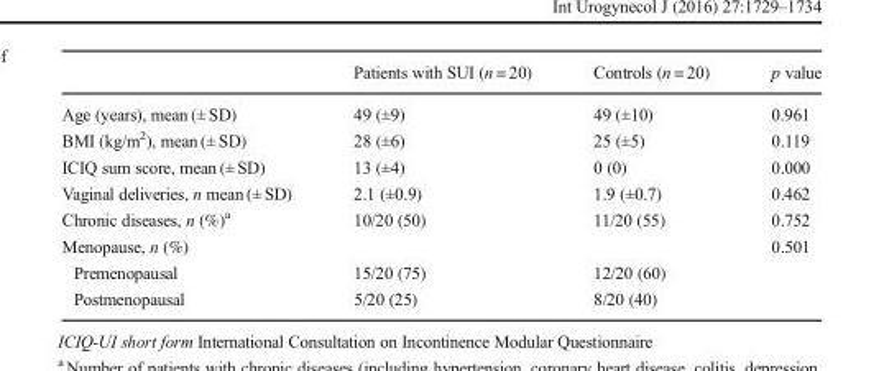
<table><thead><tr><td></td><td>Patients with SUI (n = 20)</td><td>Controls (n = 20)</td><td>p value</td></tr></thead><tbody><tr><td>Age (years), mean (± SD)</td><td>49 (±9)</td><td>49 (±10)</td><td>0.961</td></tr><tr><td>BMI (kg/m<sup>2</sup>), mean (± SD)</td><td>28 (±6)</td><td>25 (±5)</td><td>0.119</td></tr><tr><td>ICIQ sum score, mean (± SD)</td><td>13 (±4)</td><td>0 (0)</td><td>0.000</td></tr><tr><td>Vaginal deliveries, n mean (± SD)</td><td>2.1 (±0.9)</td><td>1.9 (±0.7)</td><td>0.462</td></tr><tr><td>Chronic diseases, n (%)<sup>a</sup></td><td>10/20 (50)</td><td>11/20 (55)</td><td>0.752</td></tr><tr><td>Menopause, n (%)</td><td></td><td></td><td>0.501</td></tr><tr><td>Premenopausal</td><td>15/20 (75)</td><td>12/20 (60)</td><td></td></tr><tr><td>Postmenopausal</td><td>5/20 (25)</td><td>8/20 (40)</td><td></td></tr></tbody></table>